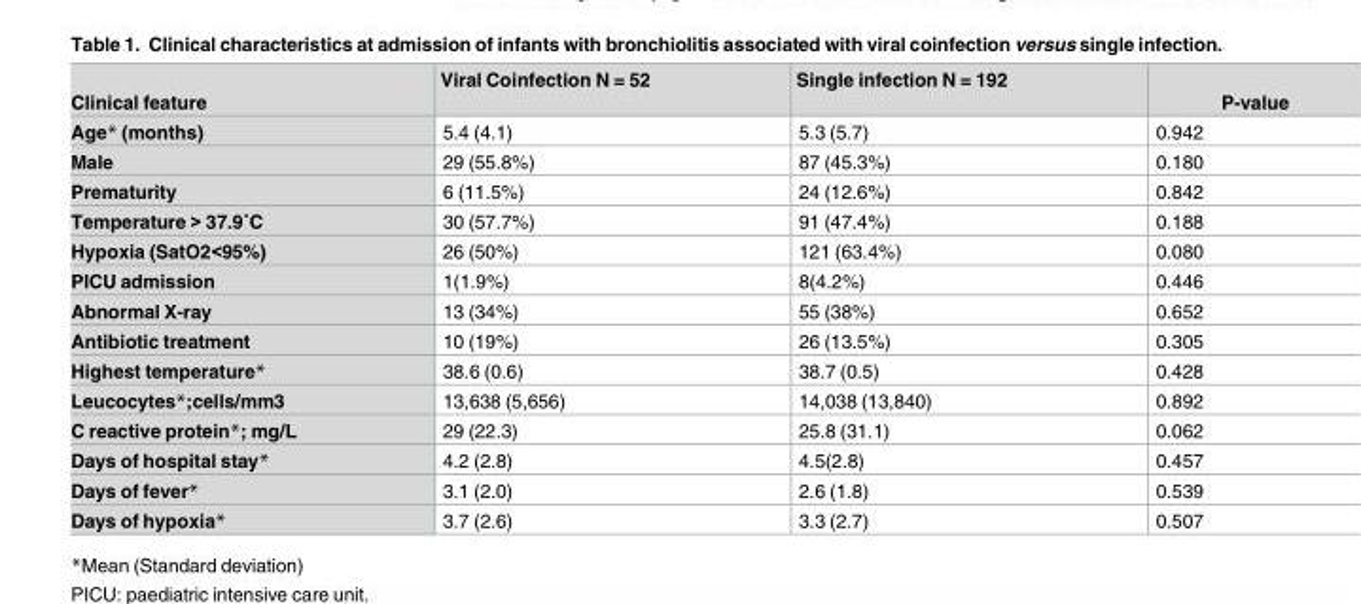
<table><thead><tr><td>Clinical feature</td><td>Viral Coinfection N = 52</td><td>Single infection N = 192</td><td>P-value</td></tr></thead><tbody><tr><td>Age* (months)</td><td>5.4 (4.1)</td><td>5.3 (5.7)</td><td>0.942</td></tr><tr><td>Male</td><td>29 (55.8%)</td><td>87 (45.3%)</td><td>0.180</td></tr><tr><td>Prematurity</td><td>6 (11.5%)</td><td>24 (12.6%)</td><td>0.842</td></tr><tr><td>Temperature &gt; 37.9˚C</td><td>30 (57.7%)</td><td>91 (47.4%)</td><td>0.188</td></tr><tr><td>Hypoxia (SatO2&lt;95%)</td><td>26 (50%)</td><td>121 (63.4%)</td><td>0.080</td></tr><tr><td>PICU admission</td><td>1(1.9%)</td><td>8(4.2%)</td><td>0.446</td></tr><tr><td>Abnormal X-ray</td><td>13 (34%)</td><td>55 (38%)</td><td>0.652</td></tr><tr><td>Antibiotic treatment</td><td>10 (19%)</td><td>26 (13.5%)</td><td>0.305</td></tr><tr><td>Highest temperature*</td><td>38.6 (0.6)</td><td>38.7 (0.5)</td><td>0.428</td></tr><tr><td>Leucocytes*;cells/mm3</td><td>13,638 (5,656)</td><td>14,038 (13,840)</td><td>0.892</td></tr><tr><td>C reactive protein*; mg/L</td><td>29 (22.3)</td><td>25.8 (31.1)</td><td>0.062</td></tr><tr><td>Days of hospital stay*</td><td>4.2 (2.8)</td><td>4.5(2.8)</td><td>0.457</td></tr><tr><td>Days of fever*</td><td>3.1 (2.0)</td><td>2.6 (1.8)</td><td>0.539</td></tr><tr><td>Days of hypoxia*</td><td>3.7 (2.6)</td><td>3.3 (2.7)</td><td>0.507</td></tr></tbody></table>